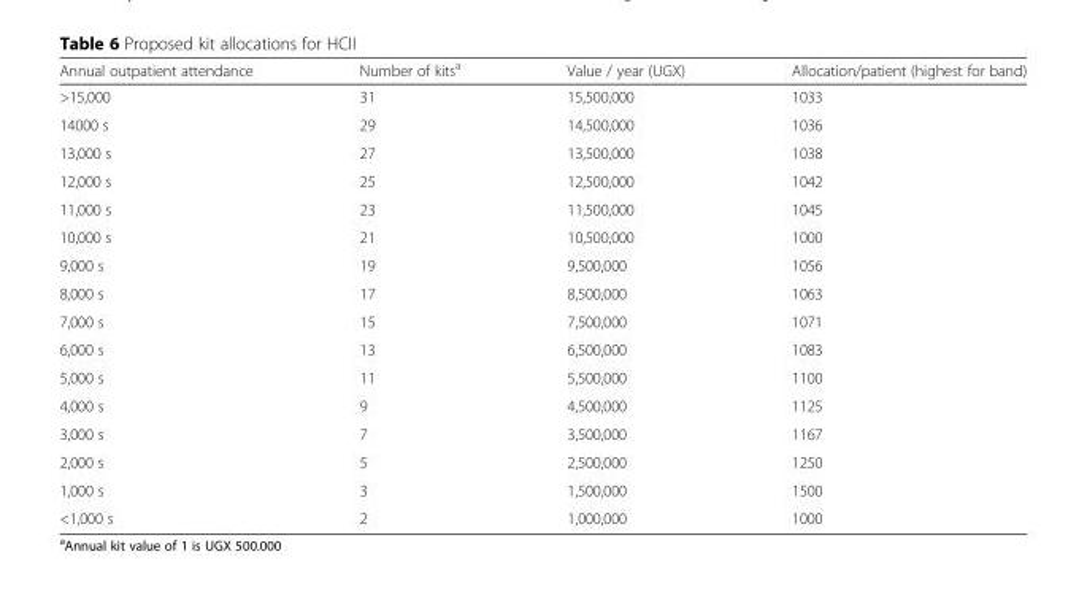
<table><thead><tr><td>Annual outpatient attendance</td><td>Number of kits<sup>a</sup></td><td>Value / year (UGX)</td><td>Allocation/patient (highest for band)</td></tr></thead><tbody><tr><td>&gt;15,000</td><td>31</td><td>15,500,000</td><td>1033</td></tr><tr><td>14000 s</td><td>29</td><td>14,500,000</td><td>1036</td></tr><tr><td>13,000 s</td><td>27</td><td>13,500,000</td><td>1038</td></tr><tr><td>12,000 s</td><td>25</td><td>12,500,000</td><td>1042</td></tr><tr><td>11,000 s</td><td>23</td><td>11,500,000</td><td>1045</td></tr><tr><td>10,000 s</td><td>21</td><td>10,500,000</td><td>1000</td></tr><tr><td>9,000 s</td><td>19</td><td>9,500,000</td><td>1056</td></tr><tr><td>8,000 s</td><td>17</td><td>8,500,000</td><td>1063</td></tr><tr><td>7,000 s</td><td>15</td><td>7,500,000</td><td>1071</td></tr><tr><td>6,000 s</td><td>13</td><td>6,500,000</td><td>1083</td></tr><tr><td>5,000 s</td><td>11</td><td>5,500,000</td><td>1100</td></tr><tr><td>4,000 s</td><td>9</td><td>4,500,000</td><td>1125</td></tr><tr><td>3,000 s</td><td>7</td><td>3,500,000</td><td>1167</td></tr><tr><td>2,000 s</td><td>5</td><td>2,500,000</td><td>1250</td></tr><tr><td>1,000 s</td><td>3</td><td>1,500,000</td><td>1500</td></tr><tr><td>&lt;1,000 s</td><td>2</td><td>1,000,000</td><td>1000</td></tr></tbody></table>